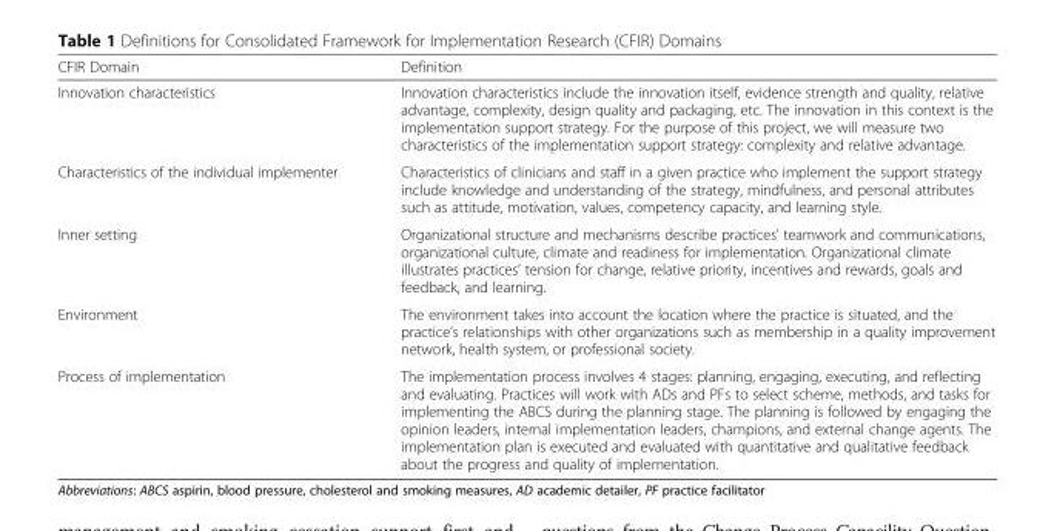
<table><thead><tr><td>CFIR Domain</td><td>Definition</td></tr></thead><tbody><tr><td>Innovation characteristics</td><td>Innovation characteristics include the innovation itself, evidence strength and quality, relative advantage, complexity, design quality and packaging, etc. The innovation in this context is the implementation support strategy. For the purpose of this project, we will measure two characteristics of the implementation support strategy: complexity and relative advantage.</td></tr><tr><td>Characteristics of the individual implementer</td><td>Characteristics of clinicians and staff in a given practice who implement the support strategy include knowledge and understanding of the strategy, mindfulness, and personal attributes such as attitude, motivation, values, competency capacity, and learning style.</td></tr><tr><td>Inner setting</td><td>Organizational structure and mechanisms describe practices’ teamwork and communications, organizational culture, climate and readiness for implementation. Organizational climate illustrates practices’ tension for change, relative priority, incentives and rewards, goals and feedback, and learning.</td></tr><tr><td>Environment</td><td>The environment takes into account the location where the practice is situated, and the practice’s relationships with other organizations such as membership in a quality improvement network, health system, or professional society.</td></tr><tr><td>Process of implementation</td><td>The implementation process involves 4 stages: planning, engaging, executing, and reflecting and evaluating. Practices will work with ADs and PFs to select scheme, methods, and tasks for implementing the ABCS during the planning stage. The planning is followed by engaging the opinion leaders, internal implementation leaders, champions, and external change agents. The implementation plan is executed and evaluated with quantitative and qualitative feedback about the progress and quality of implementation.</td></tr></tbody></table>